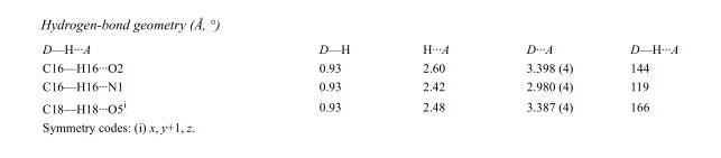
<table><tbody><tr><td>D—H···A</td><td>D—H</td><td>H···A</td><td>D···A</td><td>D—H···A</td></tr><tr><td>C16—H16···O2</td><td>0.93</td><td>2.60</td><td>3.398 (4)</td><td>144</td></tr><tr><td>C16—H16···N1</td><td>0.93</td><td>2.42</td><td>2.980 (4)</td><td>119</td></tr><tr><td>C18—H18···O5<sup>i</sup></td><td>0.93</td><td>2.48</td><td>3.387 (4)</td><td>166</td></tr></tbody></table>